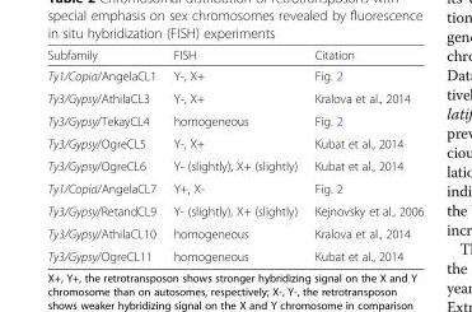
<table><thead><tr><td>Subfamily</td><td>FISH</td><td>Citation</td></tr></thead><tbody><tr><td>Ty1/Copia/AngelaCL1</td><td>Y-, X+</td><td>Fig. 2</td></tr><tr><td>Ty3/Gypsy/AthilaCL3</td><td>Y-, X+</td><td>Kralova et al., 2014</td></tr><tr><td>Ty3/Gypsy/TekayCL4</td><td>homogeneous</td><td>Fig. 2</td></tr><tr><td>Ty3/Gypsy/OgreCL5</td><td>Y-, X+</td><td>Kubat et al., 2014</td></tr><tr><td>Ty3/Gypsy/OgreCL6</td><td>Y- (slightly), X+ (slightly)</td><td>Kubat et al., 2014</td></tr><tr><td>Ty1/Copia/AngelaCL7</td><td>Y+, X-</td><td>Fig. 2</td></tr><tr><td>Ty3/Gypsy/RetandCL9</td><td>Y- (slightly), X+ (slightly)</td><td>Kejnovsky et al., 2006</td></tr><tr><td>Ty3/Gypsy/AthilaCL10</td><td>homogeneous</td><td>Kralova et al., 2014</td></tr><tr><td>Ty3/Gypsy/OgreCL11</td><td>homogeneous</td><td>Kubat et al., 2014</td></tr></tbody></table>